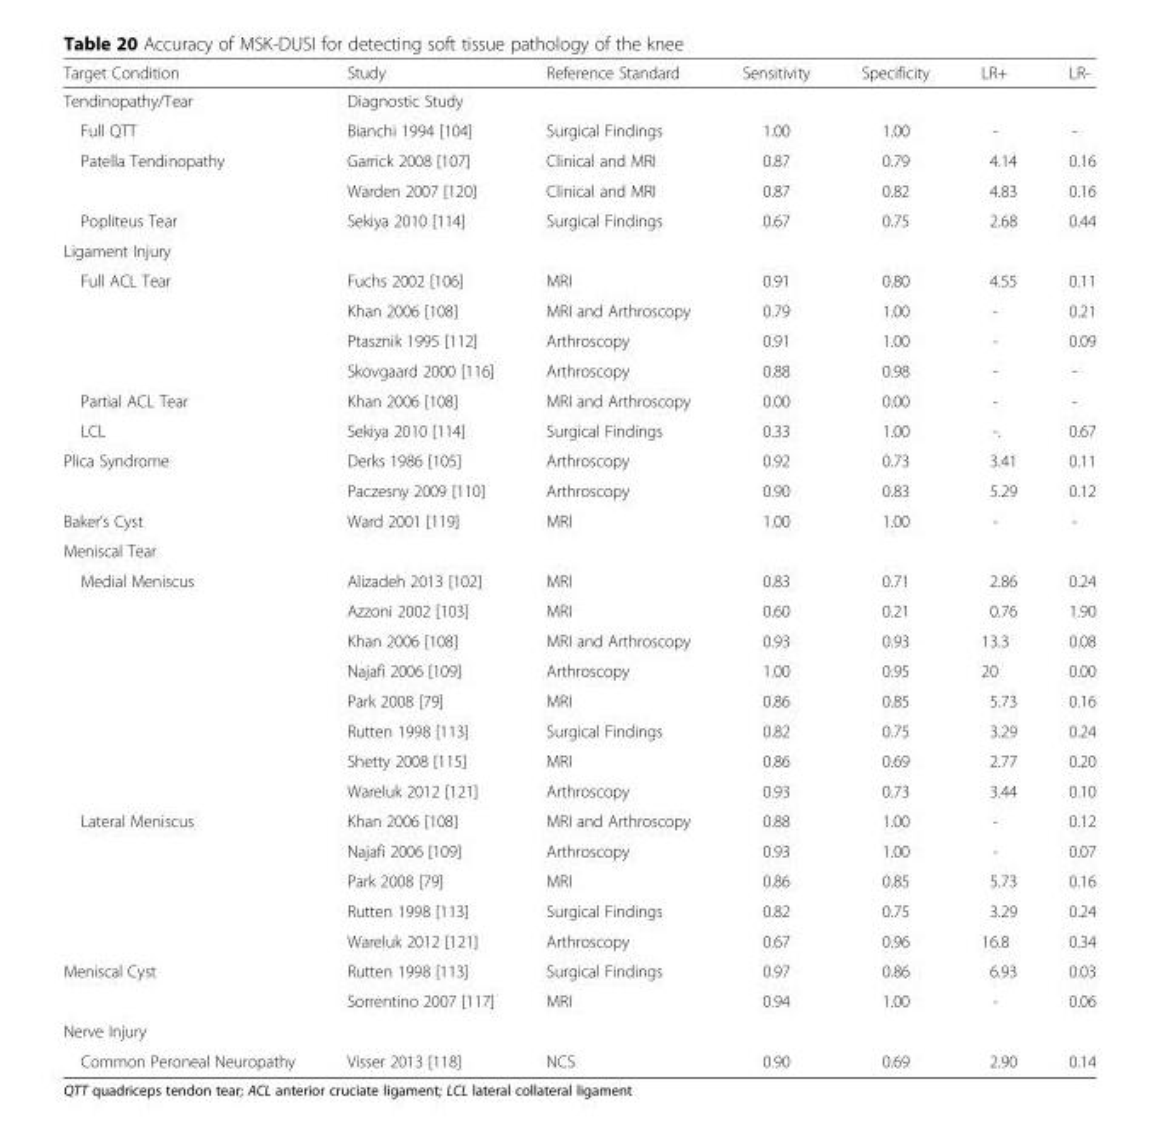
<table><thead><tr><td>Target Condition</td><td>Study</td><td>Reference Standard</td><td>Sensitivity</td><td>Specificity</td><td>LR+</td><td>LR-</td></tr></thead><tbody><tr><td>Tendinopathy/Tear</td><td>Diagnostic Study</td><td></td><td></td><td></td><td></td><td></td></tr><tr><td>Full QTT</td><td>Bianchi 1994 [104]</td><td>Surgical Findings</td><td>1.00</td><td>1.00</td><td>-</td><td>-</td></tr><tr><td rowspan="2">Patella Tendinopathy</td><td>Garrick 2008 [107]</td><td>Clinical and MRI</td><td>0.87</td><td>0.79</td><td>4.14</td><td>0.16</td></tr><tr><td>Warden 2007 [120]</td><td>Clinical and MRI</td><td>0.87</td><td>0.82</td><td>4.83</td><td>0.16</td></tr><tr><td>Popliteus Tear</td><td>Sekiya 2010 [114]</td><td>Surgical Findings</td><td>0.67</td><td>0.75</td><td>2.68</td><td>0.44</td></tr><tr><td colspan="7">Ligament Injury</td></tr><tr><td rowspan="4">Full ACL Tear</td><td>Fuchs 2002 [106]</td><td>MRI</td><td>0.91</td><td>0.80</td><td>4.55</td><td>0.11</td></tr><tr><td>Khan 2006 [108]</td><td>MRI and Arthroscopy</td><td>0.79</td><td>1.00</td><td>-</td><td>0.21</td></tr><tr><td>Ptasznik 1995 [112]</td><td>Arthroscopy</td><td>0.91</td><td>1.00</td><td>-</td><td>0.09</td></tr><tr><td>Skovgaard 2000 [116]</td><td>Arthroscopy</td><td>0.88</td><td>0.98</td><td>-</td><td>-</td></tr><tr><td>Partial ACL Tear</td><td>Khan 2006 [108]</td><td>MRI and Arthroscopy</td><td>0.00</td><td>0.00</td><td>-</td><td>-</td></tr><tr><td>LCL</td><td>Sekiya 2010 [114]</td><td>Surgical Findings</td><td>0.33</td><td>1.00</td><td>-.</td><td>0.67</td></tr><tr><td rowspan="2">Plica Syndrome</td><td>Derks 1986 [105]</td><td>Arthroscopy</td><td>0.92</td><td>0.73</td><td>3.41</td><td>0.11</td></tr><tr><td>Paczesny 2009 [110]</td><td>Arthroscopy</td><td>0.90</td><td>0.83</td><td>5.29</td><td>0.12</td></tr><tr><td>Baker’s Cyst</td><td>Ward 2001 [119]</td><td>MRI</td><td>1.00</td><td>1.00</td><td>-</td><td>-</td></tr><tr><td colspan="7">Meniscal Tear</td></tr><tr><td rowspan="8">Medial Meniscus</td><td>Alizadeh 2013 [102]</td><td>MRI</td><td>0.83</td><td>0.71</td><td>2.86</td><td>0.24</td></tr><tr><td>Azzoni 2002 [103]</td><td>MRI</td><td>0.60</td><td>0.21</td><td>0.76</td><td>1.90</td></tr><tr><td>Khan 2006 [108]</td><td>MRI and Arthroscopy</td><td>0.93</td><td>0.93</td><td>13.3</td><td>0.08</td></tr><tr><td>Najafi 2006 [109]</td><td>Arthroscopy</td><td>1.00</td><td>0.95</td><td>20</td><td>0.00</td></tr><tr><td>Park 2008 [79]</td><td>MRI</td><td>0.86</td><td>0.85</td><td>5.73</td><td>0.16</td></tr><tr><td>Rutten 1998 [113]</td><td>Surgical Findings</td><td>0.82</td><td>0.75</td><td>3.29</td><td>0.24</td></tr><tr><td>Shetty 2008 [115]</td><td>MRI</td><td>0.86</td><td>0.69</td><td>2.77</td><td>0.20</td></tr><tr><td>Wareluk 2012 [121]</td><td>Arthroscopy</td><td>0.93</td><td>0.73</td><td>3.44</td><td>0.10</td></tr><tr><td rowspan="5">Lateral Meniscus</td><td>Khan 2006 [108]</td><td>MRI and Arthroscopy</td><td>0.88</td><td>1.00</td><td>-</td><td>0.12</td></tr><tr><td>Najafi 2006 [109]</td><td>Arthroscopy</td><td>0.93</td><td>1.00</td><td>-</td><td>0.07</td></tr><tr><td>Park 2008 [79]</td><td>MRI</td><td>0.86</td><td>0.85</td><td>5.73</td><td>0.16</td></tr><tr><td>Rutten 1998 [113]</td><td>Surgical Findings</td><td>0.82</td><td>0.75</td><td>3.29</td><td>0.24</td></tr><tr><td>Wareluk 2012 [121]</td><td>Arthroscopy</td><td>0.67</td><td>0.96</td><td>16.8</td><td>0.34</td></tr><tr><td rowspan="2">Meniscal Cyst</td><td>Rutten 1998 [113]</td><td>Surgical Findings</td><td>0.97</td><td>0.86</td><td>6.93</td><td>0.03</td></tr><tr><td>Sorrentino 2007 [117]</td><td>MRI</td><td>0.94</td><td>1.00</td><td>-</td><td>0.06</td></tr><tr><td colspan="7">Nerve Injury</td></tr><tr><td>Common Peroneal Neuropathy</td><td>Visser 2013 [118]</td><td>NCS</td><td>0.90</td><td>0.69</td><td>2.90</td><td>0.14</td></tr></tbody></table>